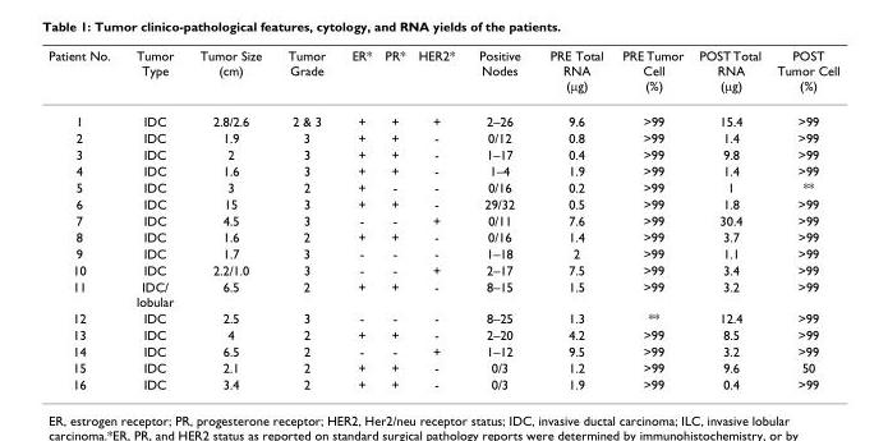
<table><thead><tr><td>Patient No.</td><td>Tumor Type</td><td>Tumor Size (cm)</td><td>Tumor Grade</td><td>ER*</td><td>PR*</td><td>HER2*</td><td>Positive Nodes</td><td>PRE Total RNA (μg)</td><td>PRE Tumor Cell (%)</td><td>POST Total RNA (μg)</td><td>POST Tumor Cell (%)</td></tr></thead><tbody><tr><td>1</td><td>IDC</td><td>2.8/2.6</td><td>2 &amp; 3</td><td>+</td><td>+</td><td>+</td><td>2–26</td><td>9.6</td><td>&gt;99</td><td>15.4</td><td>&gt;99</td></tr><tr><td>2</td><td>IDC</td><td>1.9</td><td>3</td><td>+</td><td>+</td><td>-</td><td>0/12</td><td>0.8</td><td>&gt;99</td><td>1.4</td><td>&gt;99</td></tr><tr><td>3</td><td>IDC</td><td>2</td><td>3</td><td>+</td><td>+</td><td>-</td><td>1–17</td><td>0.4</td><td>&gt;99</td><td>9.8</td><td>&gt;99</td></tr><tr><td>4</td><td>IDC</td><td>1.6</td><td>3</td><td>+</td><td>+</td><td>-</td><td>1–4</td><td>1.9</td><td>&gt;99</td><td>1.4</td><td>&gt;99</td></tr><tr><td>5</td><td>IDC</td><td>3</td><td>2</td><td>+</td><td>-</td><td>-</td><td>0/16</td><td>0.2</td><td>&gt;99</td><td>1</td><td>**</td></tr><tr><td>6</td><td>IDC</td><td>15</td><td>3</td><td>+</td><td>+</td><td>-</td><td>29/32</td><td>0.5</td><td>&gt;99</td><td>1.8</td><td>&gt;99</td></tr><tr><td>7</td><td>IDC</td><td>4.5</td><td>3</td><td>-</td><td>-</td><td>+</td><td>0/11</td><td>7.6</td><td>&gt;99</td><td>30.4</td><td>&gt;99</td></tr><tr><td>8</td><td>IDC</td><td>1.6</td><td>2</td><td>+</td><td>+</td><td>-</td><td>0/16</td><td>1.4</td><td>&gt;99</td><td>3.7</td><td>&gt;99</td></tr><tr><td>9</td><td>IDC</td><td>1.7</td><td>3</td><td>-</td><td>-</td><td>-</td><td>1–18</td><td>2</td><td>&gt;99</td><td>1.1</td><td>&gt;99</td></tr><tr><td>10</td><td>IDC</td><td>2.2/1.0</td><td>3</td><td>-</td><td>-</td><td>+</td><td>2–17</td><td>7.5</td><td>&gt;99</td><td>3.4</td><td>&gt;99</td></tr><tr><td>11</td><td>IDC/ lobular</td><td>6.5</td><td>2</td><td>+</td><td>+</td><td>-</td><td>8–15</td><td>1.5</td><td>&gt;99</td><td>3.2</td><td>&gt;99</td></tr><tr><td>12</td><td>IDC</td><td>2.5</td><td>3</td><td>-</td><td>-</td><td>-</td><td>8–25</td><td>1.3</td><td>**</td><td>12.4</td><td>&gt;99</td></tr><tr><td>13</td><td>IDC</td><td>4</td><td>2</td><td>+</td><td>+</td><td>-</td><td>2–20</td><td>4.2</td><td>&gt;99</td><td>8.5</td><td>&gt;99</td></tr><tr><td>14</td><td>IDC</td><td>6.5</td><td>2</td><td>-</td><td>-</td><td>+</td><td>1–12</td><td>9.5</td><td>&gt;99</td><td>3.2</td><td>&gt;99</td></tr><tr><td>15</td><td>IDC</td><td>2.1</td><td>2</td><td>+</td><td>+</td><td>-</td><td>0/3</td><td>1.2</td><td>&gt;99</td><td>9.6</td><td>50</td></tr><tr><td>16</td><td>IDC</td><td>3.4</td><td>2</td><td>+</td><td>+</td><td>-</td><td>0/3</td><td>1.9</td><td>&gt;99</td><td>0.4</td><td>&gt;99</td></tr></tbody></table>